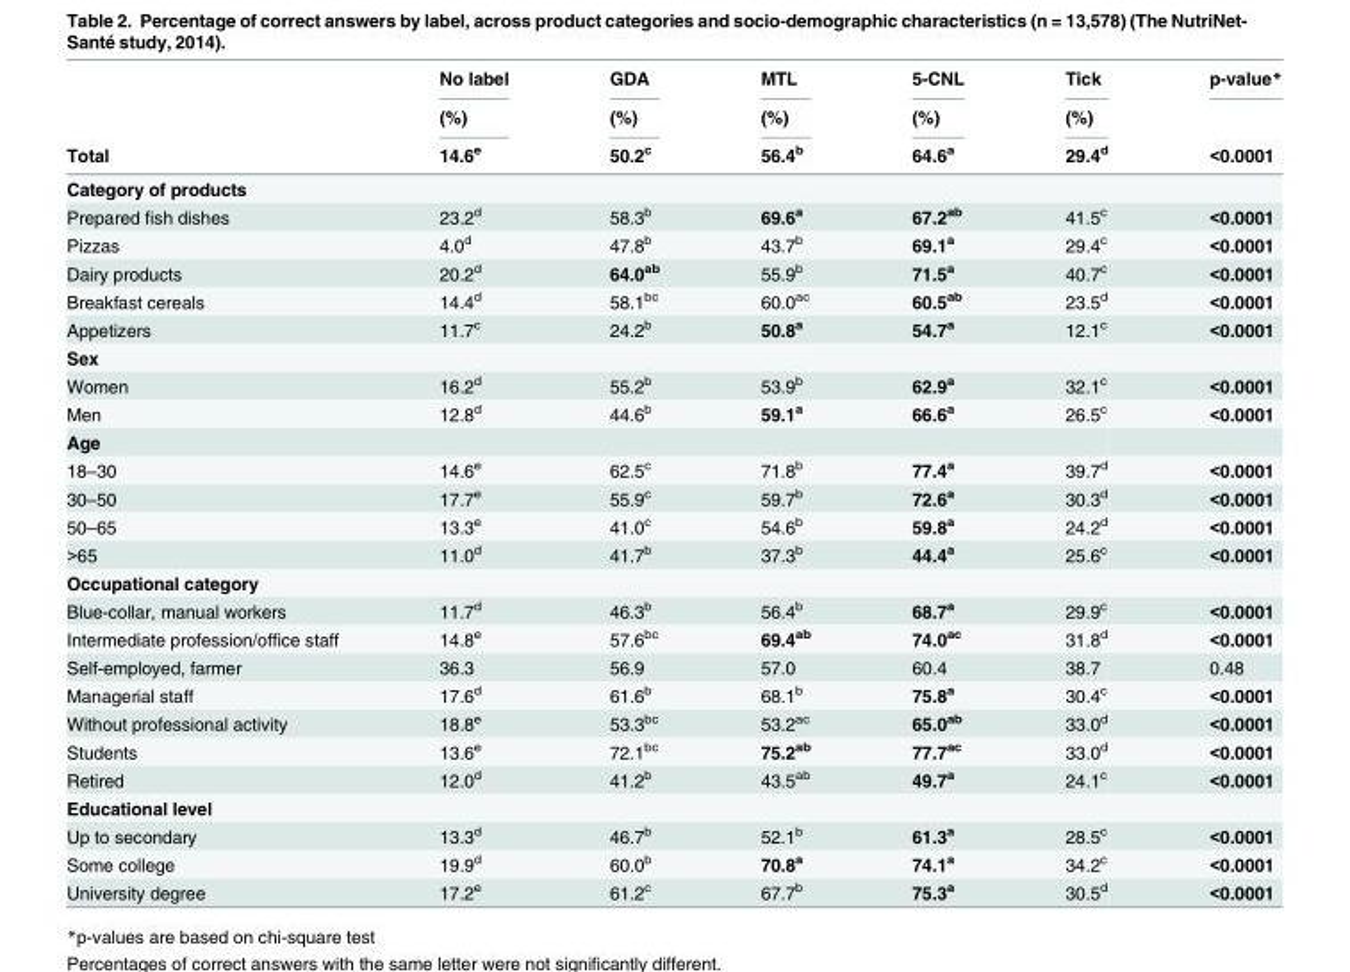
<table><thead><tr><td rowspan="3">Total</td><td rowspan="3">No label (%) 14.6<sup>e</sup></td><td rowspan="3">GDA (%) 50.2<sup>c</sup></td><td rowspan="3">MTL (%) 56.4<sup>b</sup></td><td rowspan="3">5-CNL (%) 64.6<sup>a</sup></td><td rowspan="3">Tick (%) 29.4<sup>d</sup></td><td rowspan="3">p-value* &lt;0.0001</td></tr><tr></tr><tr></tr></thead><tbody><tr><td colspan="7">Category of products</td></tr><tr><td>Prepared fish dishes</td><td>23.2<sup>d</sup></td><td>58.3<sup>b</sup></td><td>69.6<sup>a</sup></td><td>67.2<sup>ab</sup></td><td>41.5<sup>c</sup></td><td>&lt;0.0001</td></tr><tr><td>Pizzas</td><td>4.0<sup>d</sup></td><td>47.8<sup>b</sup></td><td>43.7<sup>b</sup></td><td>69.1<sup>a</sup></td><td>29.4<sup>c</sup></td><td>&lt;0.0001</td></tr><tr><td>Dairy products</td><td>20.2<sup>d</sup></td><td>64.0<sup>ab</sup></td><td>55.9<sup>b</sup></td><td>71.5<sup>a</sup></td><td>40.7<sup>c</sup></td><td>&lt;0.0001</td></tr><tr><td>Breakfast cereals</td><td>14.4<sup>d</sup></td><td>58.1<sup>bc</sup></td><td>60.0<sup>ac</sup></td><td>60.5<sup>ab</sup></td><td>23.5<sup>d</sup></td><td>&lt;0.0001</td></tr><tr><td>Appetizers</td><td>11.7<sup>c</sup></td><td>24.2<sup>b</sup></td><td>50.8<sup>a</sup></td><td>54.7<sup>a</sup></td><td>12.1<sup>c</sup></td><td>&lt;0.0001</td></tr><tr><td colspan="7">Sex</td></tr><tr><td>Women</td><td>16.2<sup>d</sup></td><td>55.2<sup>b</sup></td><td>53.9<sup>b</sup></td><td>62.9<sup>a</sup></td><td>32.1<sup>c</sup></td><td>&lt;0.0001</td></tr><tr><td>Men</td><td>12.8<sup>d</sup></td><td>44.6<sup>b</sup></td><td>59.1<sup>a</sup></td><td>66.6<sup>a</sup></td><td>26.5<sup>c</sup></td><td>&lt;0.0001</td></tr><tr><td colspan="7">Age</td></tr><tr><td>18–30</td><td>14.6<sup>e</sup></td><td>62.5<sup>c</sup></td><td>71.8<sup>b</sup></td><td>77.4<sup>a</sup></td><td>39.7<sup>d</sup></td><td>&lt;0.0001</td></tr><tr><td>30–50</td><td>17.7<sup>e</sup></td><td>55.9<sup>c</sup></td><td>59.7<sup>b</sup></td><td>72.6<sup>a</sup></td><td>30.3<sup>d</sup></td><td>&lt;0.0001</td></tr><tr><td>50–65</td><td>13.3<sup>e</sup></td><td>41.0<sup>c</sup></td><td>54.6<sup>b</sup></td><td>59.8<sup>a</sup></td><td>24.2<sup>d</sup></td><td>&lt;0.0001</td></tr><tr><td>&gt;65</td><td>11.0<sup>d</sup></td><td>41.7<sup>b</sup></td><td>37.3<sup>b</sup></td><td>44.4<sup>a</sup></td><td>25.6<sup>c</sup></td><td>&lt;0.0001</td></tr><tr><td colspan="7">Occupational category</td></tr><tr><td>Blue-collar, manual workers</td><td>11.7<sup>d</sup></td><td>46.3<sup>b</sup></td><td>56.4<sup>b</sup></td><td>68.7<sup>a</sup></td><td>29.9<sup>c</sup></td><td>&lt;0.0001</td></tr><tr><td>Intermediate profession/office staff</td><td>14.8<sup>e</sup></td><td>57.6<sup>bc</sup></td><td>69.4<sup>ab</sup></td><td>74.0<sup>ac</sup></td><td>31.8<sup>d</sup></td><td>&lt;0.0001</td></tr><tr><td>Self-employed, farmer</td><td>36.3</td><td>56.9</td><td>57.0</td><td>60.4</td><td>38.7</td><td>0.48</td></tr><tr><td>Managerial staff</td><td>17.6<sup>d</sup></td><td>61.6<sup>b</sup></td><td>68.1<sup>b</sup></td><td>75.8<sup>a</sup></td><td>30.4<sup>c</sup></td><td>&lt;0.0001</td></tr><tr><td>Without professional activity</td><td>18.8<sup>e</sup></td><td>53.3<sup>bc</sup></td><td>53.2<sup>ac</sup></td><td>65.0<sup>ab</sup></td><td>33.0<sup>d</sup></td><td>&lt;0.0001</td></tr><tr><td>Students</td><td>13.6<sup>e</sup></td><td>72.1<sup>bc</sup></td><td>75.2<sup>ab</sup></td><td>77.7<sup>ac</sup></td><td>33.0<sup>d</sup></td><td>&lt;0.0001</td></tr><tr><td>Retired</td><td>12.0<sup>d</sup></td><td>41.2<sup>b</sup></td><td>43.5<sup>ab</sup></td><td>49.7<sup>a</sup></td><td>24.1<sup>c</sup></td><td>&lt;0.0001</td></tr><tr><td colspan="7">Educational level</td></tr><tr><td>Up to secondary</td><td>13.3<sup>d</sup></td><td>46.7<sup>b</sup></td><td>52.1<sup>b</sup></td><td>61.3<sup>a</sup></td><td>28.5<sup>c</sup></td><td>&lt;0.0001</td></tr><tr><td>Some college</td><td>19.9<sup>d</sup></td><td>60.0<sup>b</sup></td><td>70.8<sup>a</sup></td><td>74.1<sup>a</sup></td><td>34.2<sup>c</sup></td><td>&lt;0.0001</td></tr><tr><td>University degree</td><td>17.2<sup>e</sup></td><td>61.2<sup>c</sup></td><td>67.7<sup>b</sup></td><td>75.3<sup>a</sup></td><td>30.5<sup>d</sup></td><td>&lt;0.0001</td></tr></tbody></table>